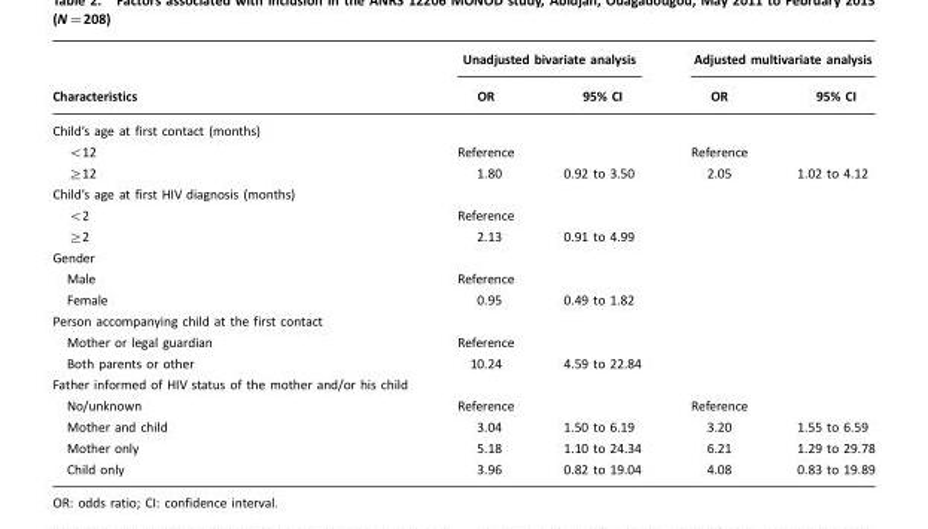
<table><thead><tr><td rowspan="2">Characteristics</td><td colspan="2">Unadjusted bivariate analysis</td><td colspan="2">Adjusted multivariate analysis</td></tr><tr><td>OR</td><td>95% CI</td><td>OR</td><td>95% CI</td></tr></thead><tbody><tr><td colspan="5">Child’s age at first contact (months)</td></tr><tr><td>&lt;12</td><td>Reference</td><td></td><td>Reference</td><td></td></tr><tr><td>≥12</td><td>1.80</td><td>0.92 to 3.50</td><td>2.05</td><td>1.02 to 4.12</td></tr><tr><td colspan="5">Child’s age at first HIV diagnosis (months)</td></tr><tr><td>&lt;2</td><td>Reference</td><td></td><td></td><td></td></tr><tr><td>≥2</td><td>2.13</td><td>0.91 to 4.99</td><td></td><td></td></tr><tr><td colspan="5">Gender</td></tr><tr><td>Male</td><td>Reference</td><td></td><td></td><td></td></tr><tr><td>Female</td><td>0.95</td><td>0.49 to 1.82</td><td></td><td></td></tr><tr><td colspan="5">Person accompanying child at the first contact</td></tr><tr><td>Mother or legal guardian</td><td>Reference</td><td></td><td></td><td></td></tr><tr><td>Both parents or other</td><td>10.24</td><td>4.59 to 22.84</td><td></td><td></td></tr><tr><td colspan="5">Father informed of HIV status of the mother and/or his child</td></tr><tr><td>No/unknown</td><td>Reference</td><td></td><td>Reference</td><td></td></tr><tr><td>Mother and child</td><td>3.04</td><td>1.50 to 6.19</td><td>3.20</td><td>1.55 to 6.59</td></tr><tr><td>Mother only</td><td>5.18</td><td>1.10 to 24.34</td><td>6.21</td><td>1.29 to 29.78</td></tr><tr><td>Child only</td><td>3.96</td><td>0.82 to 19.04</td><td>4.08</td><td>0.83 to 19.89</td></tr></tbody></table>